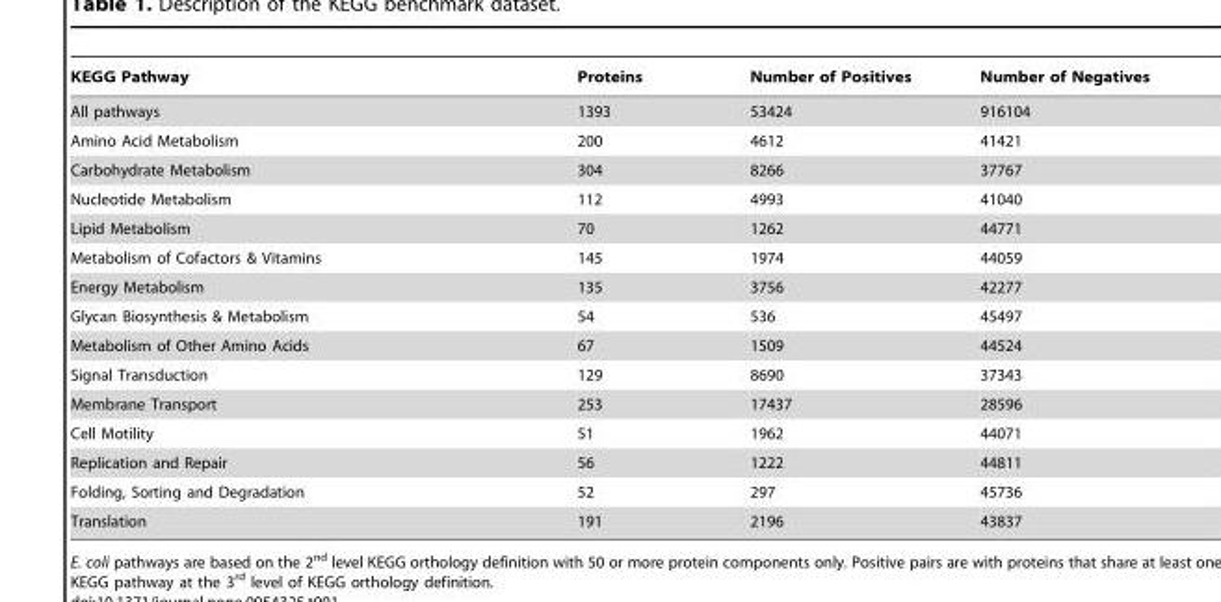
<table><thead><tr><td>KEGG Pathway</td><td>Proteins</td><td>Number of Positives</td><td>Number of Negatives</td></tr></thead><tbody><tr><td>All pathways</td><td>1393</td><td>53424</td><td>916104</td></tr><tr><td>Amino Acid Metabolism</td><td>200</td><td>4612</td><td>41421</td></tr><tr><td>Carbohydrate Metabolism</td><td>304</td><td>8266</td><td>37767</td></tr><tr><td>Nucleotide Metabolism</td><td>112</td><td>4993</td><td>41040</td></tr><tr><td>Lipid Metabolism</td><td>70</td><td>1262</td><td>44771</td></tr><tr><td>Metabolism of Cofactors &amp; Vitamins</td><td>145</td><td>1974</td><td>44059</td></tr><tr><td>Energy Metabolism</td><td>135</td><td>3756</td><td>42277</td></tr><tr><td>Glycan Biosynthesis &amp; Metabolism</td><td>54</td><td>536</td><td>45497</td></tr><tr><td>Metabolism of Other Amino Acids</td><td>67</td><td>1509</td><td>44524</td></tr><tr><td>Signal Transduction</td><td>129</td><td>8690</td><td>37343</td></tr><tr><td>Membrane Transport</td><td>253</td><td>17437</td><td>28596</td></tr><tr><td>Cell Motility</td><td>51</td><td>1962</td><td>44071</td></tr><tr><td>Replication and Repair</td><td>56</td><td>1222</td><td>44811</td></tr><tr><td>Folding, Sorting and Degradation</td><td>52</td><td>297</td><td>45736</td></tr><tr><td>Translation</td><td>191</td><td>2196</td><td>43837</td></tr></tbody></table>